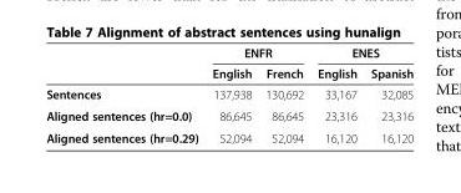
<table><thead><tr><td rowspan="2"></td><td colspan="2">ENFR</td><td colspan="2">ENES</td></tr><tr><td>English</td><td>French</td><td>English</td><td>Spanish</td></tr></thead><tbody><tr><td>Sentences</td><td>137,938</td><td>130,692</td><td>33,167</td><td>32,085</td></tr><tr><td>Aligned sentences (hr=0.0)</td><td>86,645</td><td>86,645</td><td>23,316</td><td>23,316</td></tr><tr><td>Aligned sentences (hr=0.29)</td><td>52,094</td><td>52,094</td><td>16,120</td><td>16,120</td></tr></tbody></table>